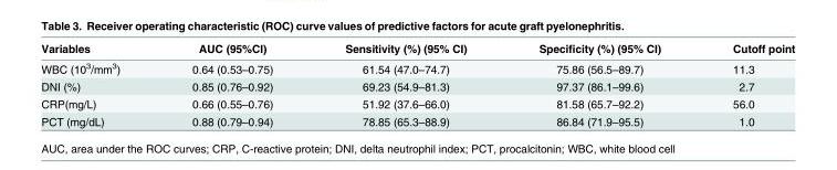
<table><thead><tr><td>Variables</td><td>AUC (95%CI)</td><td>Sensitivity (%) (95% CI)</td><td>Specificity (%) (95% CI)</td><td>Cutoff point</td></tr></thead><tbody><tr><td>WBC (10<sup>3</sup>/mm<sup>3</sup>)</td><td>0.64 (0.53–0.75)</td><td>61.54 (47.0–74.7)</td><td>75.86 (56.5–89.7)</td><td>11.3</td></tr><tr><td>DNI (%)</td><td>0.85 (0.76–0.92)</td><td>69.23 (54.9–81.3)</td><td>97.37 (86.1–99.6)</td><td>2.7</td></tr><tr><td>CRP(mg/L)</td><td>0.66 (0.55–0.76)</td><td>51.92 (37.6–66.0)</td><td>81.58 (65.7–92.2)</td><td>56.0</td></tr><tr><td>PCT (mg/dL)</td><td>0.88 (0.79–0.94)</td><td>78.85 (65.3–88.9)</td><td>86.84 (71.9–95.5)</td><td>1.0</td></tr></tbody></table>